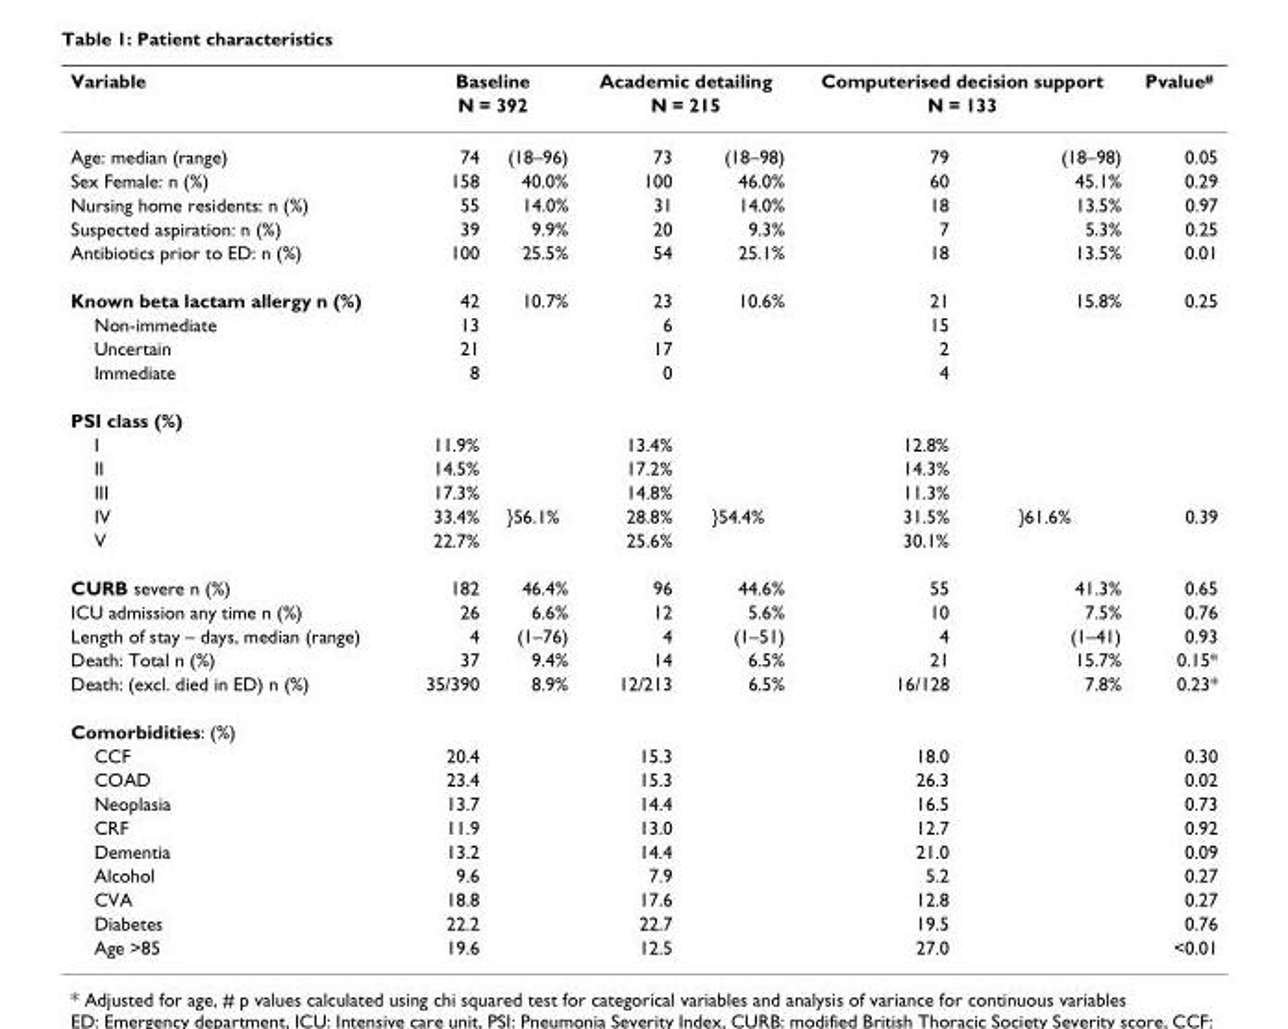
<table><thead><tr><td rowspan="3">Variable Age: median (range)</td><td rowspan="2" colspan="2">Baseline N = 392</td><td rowspan="2" colspan="2">Academic detailing N = 215</td><td rowspan="2" colspan="2">Computerised decision support N = 133</td><td rowspan="3">Pvalue<sup>#</sup> 0.05</td></tr><tr></tr><tr><td>74</td><td>(18–96)</td><td>73</td><td>(18–98)</td><td>79</td><td>(18–98)</td></tr></thead><tbody><tr><td>Sex Female: n (%)</td><td>158</td><td>40.0%</td><td>100</td><td>46.0%</td><td>60</td><td>45.1%</td><td>0.29</td></tr><tr><td>Nursing home residents: n (%)</td><td>55</td><td>14.0%</td><td>31</td><td>14.0%</td><td>18</td><td>13.5%</td><td>0.97</td></tr><tr><td>Suspected aspiration: n (%)</td><td>39</td><td>9.9%</td><td>20</td><td>9.3%</td><td>7</td><td>5.3%</td><td>0.25</td></tr><tr><td>Antibiotics prior to ED: n (%)</td><td>100</td><td>25.5%</td><td>54</td><td>25.1%</td><td>18</td><td>13.5%</td><td>0.01</td></tr><tr><td>Known beta lactam allergy n (%)</td><td>42</td><td>10.7%</td><td>23</td><td>10.6%</td><td>21</td><td>15.8%</td><td>0.25</td></tr><tr><td>Non-immediate</td><td>13</td><td></td><td>6</td><td></td><td>15</td><td></td><td></td></tr><tr><td>Uncertain</td><td>21</td><td></td><td>17</td><td></td><td>2</td><td></td><td></td></tr><tr><td>Immediate</td><td>8</td><td></td><td>0</td><td></td><td>4</td><td></td><td></td></tr><tr><td colspan="8">PSI class (%)</td></tr><tr><td>I</td><td>11.9%</td><td></td><td>13.4%</td><td></td><td>12.8%</td><td></td><td></td></tr><tr><td>II</td><td>14.5%</td><td></td><td>17.2%</td><td></td><td>14.3%</td><td></td><td></td></tr><tr><td>III</td><td>17.3%</td><td></td><td>14.8%</td><td></td><td>11.3%</td><td></td><td></td></tr><tr><td>IV</td><td>33.4%</td><td>}56.1%</td><td>28.8%</td><td>}54.4%</td><td>31.5%</td><td>}61.6%</td><td>0.39</td></tr><tr><td>V</td><td>22.7%</td><td></td><td>25.6%</td><td></td><td>30.1%</td><td></td><td></td></tr><tr><td>CURB severe n (%)</td><td>182</td><td>46.4%</td><td>96</td><td>44.6%</td><td>55</td><td>41.3%</td><td>0.65</td></tr><tr><td>ICU admission any time n (%)</td><td>26</td><td>6.6%</td><td>12</td><td>5.6%</td><td>10</td><td>7.5%</td><td>0.76</td></tr><tr><td>Length of stay – days, median (range)</td><td>4</td><td>(1–76)</td><td>4</td><td>(1–51)</td><td>4</td><td>(1–41)</td><td>0.93</td></tr><tr><td>Death: Total n (%)</td><td>37</td><td>9.4%</td><td>14</td><td>6.5%</td><td>21</td><td>15.7%</td><td>0.15*</td></tr><tr><td>Death: (excl. died in ED) n (%)</td><td>35/390</td><td>8.9%</td><td>12/213</td><td>6.5%</td><td>16/128</td><td>7.8%</td><td>0.23*</td></tr><tr><td colspan="8">Comorbidities: (%)</td></tr><tr><td>CCF</td><td>20.4</td><td></td><td>15.3</td><td></td><td>18.0</td><td></td><td>0.30</td></tr><tr><td>COAD</td><td>23.4</td><td></td><td>15.3</td><td></td><td>26.3</td><td></td><td>0.02</td></tr><tr><td>Neoplasia</td><td>13.7</td><td></td><td>14.4</td><td></td><td>16.5</td><td></td><td>0.73</td></tr><tr><td>CRF</td><td>11.9</td><td></td><td>13.0</td><td></td><td>12.7</td><td></td><td>0.92</td></tr><tr><td>Dementia</td><td>13.2</td><td></td><td>14.4</td><td></td><td>21.0</td><td></td><td>0.09</td></tr><tr><td>Alcohol</td><td>9.6</td><td></td><td>7.9</td><td></td><td>5.2</td><td></td><td>0.27</td></tr><tr><td>CVA</td><td>18.8</td><td></td><td>17.6</td><td></td><td>12.8</td><td></td><td>0.27</td></tr><tr><td>Diabetes</td><td>22.2</td><td></td><td>22.7</td><td></td><td>19.5</td><td></td><td>0.76</td></tr><tr><td>Age &gt;85</td><td>19.6</td><td></td><td>12.5</td><td></td><td>27.0</td><td></td><td>&lt;0.01</td></tr></tbody></table>